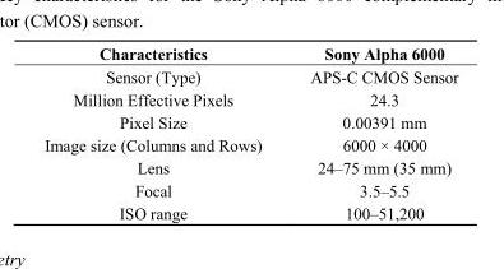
<table><thead><tr><td>Characteristics</td><td>Sony Alpha 6000</td></tr></thead><tbody><tr><td>Sensor (Type)</td><td>APS-C CMOS Sensor</td></tr><tr><td>Million Effective Pixels</td><td>24.3</td></tr><tr><td>Pixel Size</td><td>0.00391 mm</td></tr><tr><td>Image size (Columns and Rows)</td><td>6000 × 4000</td></tr><tr><td>Lens</td><td>24–75 mm (35 mm)</td></tr><tr><td>Focal</td><td>3.5–5.5</td></tr><tr><td>ISO range</td><td>100–51,200</td></tr></tbody></table>